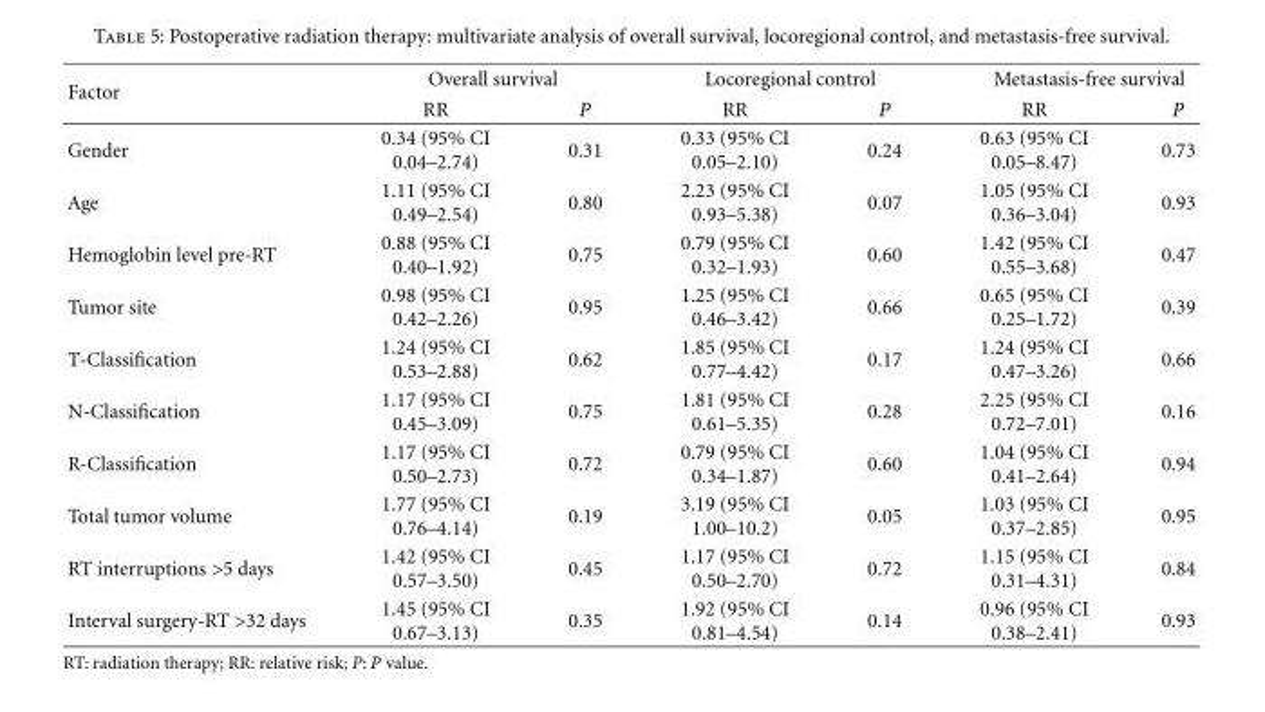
<table><thead><tr><td rowspan="2">Factor</td><td colspan="2">Overall survival</td><td colspan="2">Locoregional control</td><td colspan="2">Metastasis-free survival</td></tr><tr><td>RR</td><td>P</td><td>RR</td><td>P</td><td>RR</td><td>P</td></tr></thead><tbody><tr><td>Gender</td><td>0.34 (95% CI 0.04–2.74)</td><td>0.31</td><td>0.33 (95% CI 0.05–2.10)</td><td>0.24</td><td>0.63 (95% CI 0.05–8.47)</td><td>0.73</td></tr><tr><td>Age</td><td>1.11 (95% CI 0.49–2.54)</td><td>0.80</td><td>2.23 (95% CI 0.93–5.38)</td><td>0.07</td><td>1.05 (95% CI 0.36–3.04)</td><td>0.93</td></tr><tr><td>Hemoglobin level pre-RT</td><td>0.88 (95% CI 0.40–1.92)</td><td>0.75</td><td>0.79 (95% CI 0.32–1.93)</td><td>0.60</td><td>1.42 (95% CI 0.55–3.68)</td><td>0.47</td></tr><tr><td>Tumor site</td><td>0.98 (95% CI 0.42–2.26)</td><td>0.95</td><td>1.25 (95% CI 0.46–3.42)</td><td>0.66</td><td>0.65 (95% CI 0.25–1.72)</td><td>0.39</td></tr><tr><td>T-Classification</td><td>1.24 (95% CI 0.53–2.88)</td><td>0.62</td><td>1.85 (95% CI 0.77–4.42)</td><td>0.17</td><td>1.24 (95% CI 0.47–3.26)</td><td>0.66</td></tr><tr><td>N-Classification</td><td>1.17 (95% CI 0.45–3.09)</td><td>0.75</td><td>1.81 (95% CI 0.61–5.35)</td><td>0.28</td><td>2.25 (95% CI 0.72–7.01)</td><td>0.16</td></tr><tr><td>R-Classification</td><td>1.17 (95% CI 0.50–2.73)</td><td>0.72</td><td>0.79 (95% CI 0.34–1.87)</td><td>0.60</td><td>1.04 (95% CI 0.41–2.64)</td><td>0.94</td></tr><tr><td>Total tumor volume</td><td>1.77 (95% CI 0.76–4.14)</td><td>0.19</td><td>3.19 (95% CI 1.00–10.2)</td><td>0.05</td><td>1.03 (95% CI 0.37–2.85)</td><td>0.95</td></tr><tr><td>RT interruptions &gt;5 days</td><td>1.42 (95% CI 0.57–3.50)</td><td>0.45</td><td>1.17 (95% CI 0.50–2.70)</td><td>0.72</td><td>1.15 (95% CI 0.31–4.31)</td><td>0.84</td></tr><tr><td>Interval surgery-RT &gt;32 days</td><td>1.45 (95% CI 0.67–3.13)</td><td>0.35</td><td>1.92 (95% CI 0.81–4.54)</td><td>0.14</td><td>0.96 (95% CI 0.38–2.41)</td><td>0.93</td></tr></tbody></table>